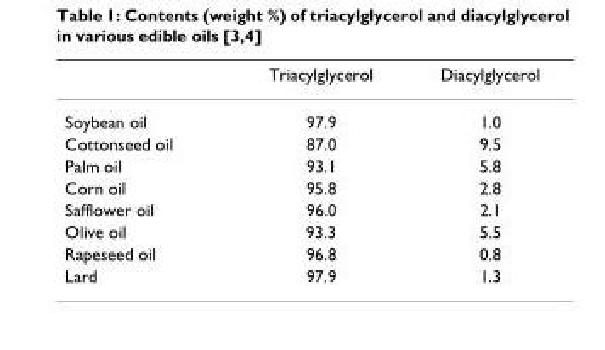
<table><thead><tr><td></td><td>Triacylglycerol</td><td>Diacylglycerol</td></tr></thead><tbody><tr><td>Soybean oil</td><td>97.9</td><td>1.0</td></tr><tr><td>Cottonseed oil</td><td>87.0</td><td>9.5</td></tr><tr><td>Palm oil</td><td>93.1</td><td>5.8</td></tr><tr><td>Corn oil</td><td>95.8</td><td>2.8</td></tr><tr><td>Safflower oil</td><td>96.0</td><td>2.1</td></tr><tr><td>Olive oil</td><td>93.3</td><td>5.5</td></tr><tr><td>Rapeseed oil</td><td>96.8</td><td>0.8</td></tr><tr><td>Lard</td><td>97.9</td><td>1.3</td></tr></tbody></table>